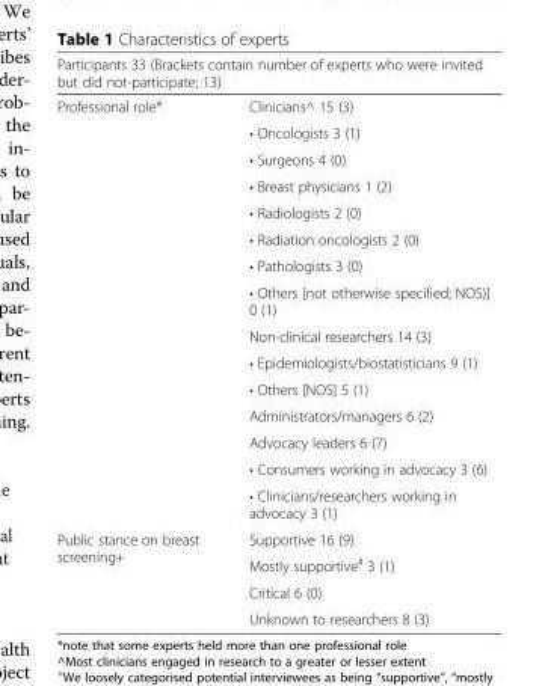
<table><thead><tr><td colspan="2">Participants 33 (Brackets contain number of experts who were invited but did not-participate; 13)</td></tr><tr><td>Professional role*</td><td>Clinicians^ 15 (3)</td></tr></thead><tbody><tr><td></td><td>• Oncologists 3 (1)</td></tr><tr><td></td><td>• Surgeons 4 (0)</td></tr><tr><td></td><td>• Breast physicians 1 (2)</td></tr><tr><td></td><td>• Radiologists 2 (0)</td></tr><tr><td></td><td>• Radiation oncologists 2 (0)</td></tr><tr><td></td><td>• Pathologists 3 (0)</td></tr><tr><td></td><td>• Others [not otherwise specified; NOS)] 0 (1)</td></tr><tr><td></td><td>Non-clinical researchers 14 (3)</td></tr><tr><td></td><td>• Epidemiologists/biostatisticians 9 (1)</td></tr><tr><td></td><td>• Others [NOS] 5 (1)</td></tr><tr><td></td><td>Administrators/managers 6 (2)</td></tr><tr><td></td><td>Advocacy leaders 6 (7)</td></tr><tr><td rowspan="2"></td><td>• Consumers working in advocacy 3 (6)</td></tr><tr><td>• Clinicians/researchers working in advocacy 3 (1)</td></tr><tr><td rowspan="4">Public stance on breast screening+</td><td>Supportive 16 (9)</td></tr><tr><td>Mostly supportive<sup>#</sup> 3 (1)</td></tr><tr><td>Critical 6 (0)</td></tr><tr><td>Unknown to researchers 8 (3)</td></tr></tbody></table>